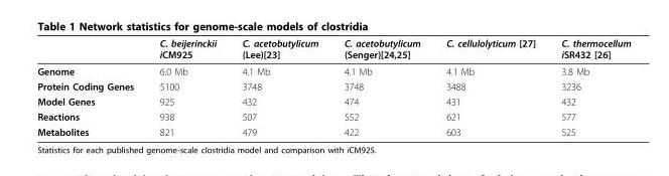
<table><thead><tr><td></td><td>C. beijerinckii iCM925</td><td>C. acetobutylicum (Lee)[23]</td><td>C. acetobutylicum (Senger)[24,25]</td><td>C. cellulolyticum [27]</td><td>C. thermocellum iSR432 [26]</td></tr></thead><tbody><tr><td>Genome</td><td>6.0 Mb</td><td>4.1 Mb</td><td>4.1 Mb</td><td>4.1 Mb</td><td>3.8 Mb</td></tr><tr><td>Protein Coding Genes</td><td>5100</td><td>3748</td><td>3748</td><td>3488</td><td>3236</td></tr><tr><td>Model Genes</td><td>925</td><td>432</td><td>474</td><td>431</td><td>432</td></tr><tr><td>Reactions</td><td>938</td><td>507</td><td>552</td><td>621</td><td>577</td></tr><tr><td>Metabolites</td><td>821</td><td>479</td><td>422</td><td>603</td><td>525</td></tr></tbody></table>